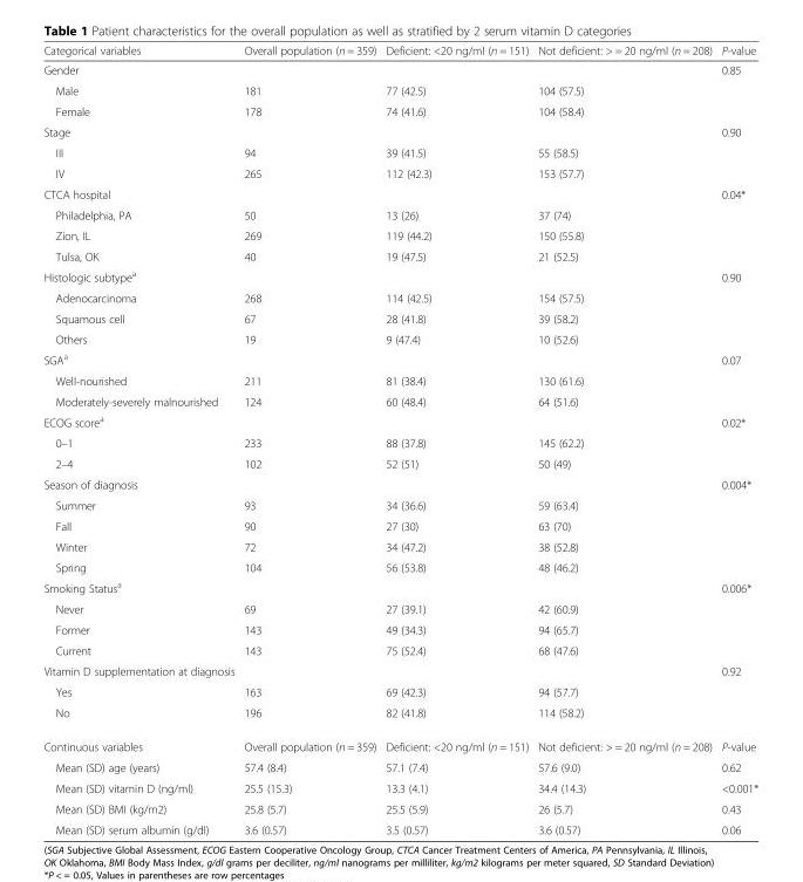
<table><thead><tr><td>Categorical variables</td><td>Overall population (n = 359)</td><td>Deficient: &lt;20 ng/ml (n = 151)</td><td>Not deficient: &gt; = 20 ng/ml (n = 208)</td><td>P-value</td></tr></thead><tbody><tr><td>Gender</td><td></td><td></td><td></td><td>0.85</td></tr><tr><td>Male</td><td>181</td><td>77 (42.5)</td><td>104 (57.5)</td><td></td></tr><tr><td>Female</td><td>178</td><td>74 (41.6)</td><td>104 (58.4)</td><td></td></tr><tr><td>Stage</td><td></td><td></td><td></td><td>0.90</td></tr><tr><td>III</td><td>94</td><td>39 (41.5)</td><td>55 (58.5)</td><td></td></tr><tr><td>IV</td><td>265</td><td>112 (42.3)</td><td>153 (57.7)</td><td></td></tr><tr><td>CTCA hospital</td><td></td><td></td><td></td><td>0.04*</td></tr><tr><td>Philadelphia, PA</td><td>50</td><td>13 (26)</td><td>37 (74)</td><td></td></tr><tr><td>Zion, IL</td><td>269</td><td>119 (44.2)</td><td>150 (55.8)</td><td></td></tr><tr><td>Tulsa, OK</td><td>40</td><td>19 (47.5)</td><td>21 (52.5)</td><td></td></tr><tr><td>Histologic subtype<sup>a</sup></td><td></td><td></td><td></td><td>0.90</td></tr><tr><td>Adenocarcinoma</td><td>268</td><td>114 (42.5)</td><td>154 (57.5)</td><td></td></tr><tr><td>Squamous cell</td><td>67</td><td>28 (41.8)</td><td>39 (58.2)</td><td></td></tr><tr><td>Others</td><td>19</td><td>9 (47.4)</td><td>10 (52.6)</td><td></td></tr><tr><td>SGA<sup>a</sup></td><td></td><td></td><td></td><td>0.07</td></tr><tr><td>Well-nourished</td><td>211</td><td>81 (38.4)</td><td>130 (61.6)</td><td></td></tr><tr><td>Moderately-severely malnourished</td><td>124</td><td>60 (48.4)</td><td>64 (51.6)</td><td></td></tr><tr><td>ECOG score<sup>a</sup></td><td></td><td></td><td></td><td>0.02*</td></tr><tr><td>0–1</td><td>233</td><td>88 (37.8)</td><td>145 (62.2)</td><td></td></tr><tr><td>2–4</td><td>102</td><td>52 (51)</td><td>50 (49)</td><td></td></tr><tr><td>Season of diagnosis</td><td></td><td></td><td></td><td>0.004*</td></tr><tr><td>Summer</td><td>93</td><td>34 (36.6)</td><td>59 (63.4)</td><td></td></tr><tr><td>Fall</td><td>90</td><td>27 (30)</td><td>63 (70)</td><td></td></tr><tr><td>Winter</td><td>72</td><td>34 (47.2)</td><td>38 (52.8)</td><td></td></tr><tr><td>Spring</td><td>104</td><td>56 (53.8)</td><td>48 (46.2)</td><td></td></tr><tr><td>Smoking Status<sup>a</sup></td><td></td><td></td><td></td><td>0.006*</td></tr><tr><td>Never</td><td>69</td><td>27 (39.1)</td><td>42 (60.9)</td><td></td></tr><tr><td>Former</td><td>143</td><td>49 (34.3)</td><td>94 (65.7)</td><td></td></tr><tr><td>Current</td><td>143</td><td>75 (52.4)</td><td>68 (47.6)</td><td></td></tr><tr><td>Vitamin D supplementation at diagnosis</td><td></td><td></td><td></td><td>0.92</td></tr><tr><td>Yes</td><td>163</td><td>69 (42.3)</td><td>94 (57.7)</td><td></td></tr><tr><td>No</td><td>196</td><td>82 (41.8)</td><td>114 (58.2)</td><td></td></tr><tr><td>Continuous variables</td><td>Overall population (n = 359)</td><td>Deficient: &lt;20 ng/ml (n = 151)</td><td>Not deficient: &gt; = 20 ng/ml (n = 208)</td><td>P-value</td></tr><tr><td>Mean (SD) age (years)</td><td>57.4 (8.4)</td><td>57.1 (7.4)</td><td>57.6 (9.0)</td><td>0.62</td></tr><tr><td>Mean (SD) vitamin D (ng/ml)</td><td>25.5 (15.3)</td><td>13.3 (4.1)</td><td>34.4 (14.3)</td><td>&lt;0.001*</td></tr><tr><td>Mean (SD) BMI (kg/m2)</td><td>25.8 (5.7)</td><td>25.5 (5.9)</td><td>26 (5.7)</td><td>0.43</td></tr><tr><td>Mean (SD) serum albumin (g/dl)</td><td>3.6 (0.57)</td><td>3.5 (0.57)</td><td>3.6 (0.57)</td><td>0.06</td></tr></tbody></table>